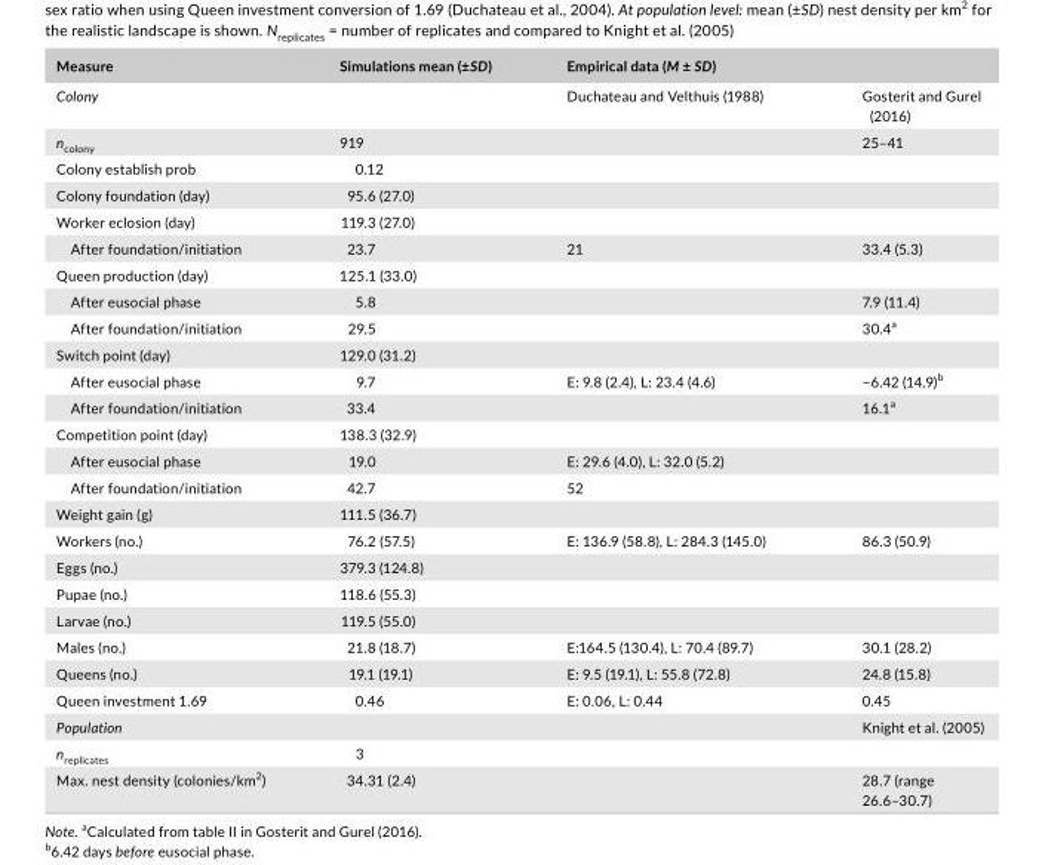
<table><thead><tr><td rowspan="2">Measure Colony</td><td rowspan="2">Simulations mean (±SD)</td><td colspan="2">Empirical data (M ± SD)</td></tr><tr><td>Duchateau and Velthuis (1988)</td><td>Gosterit and Gurel (2016)</td></tr></thead><tbody><tr><td>n<sub>colony</sub></td><td>919</td><td></td><td>25–41</td></tr><tr><td>Colony establish prob</td><td>0.12</td><td></td><td></td></tr><tr><td>Colony foundation (day)</td><td>95.6 (27.0)</td><td></td><td></td></tr><tr><td>Worker eclosion (day)</td><td>119.3 (27.0)</td><td></td><td></td></tr><tr><td>After foundation/initiation</td><td>23.7</td><td>21</td><td>33.4 (5.3)</td></tr><tr><td>Queen production (day)</td><td>125.1 (33.0)</td><td></td><td></td></tr><tr><td>After eusocial phase</td><td>5.8</td><td></td><td>7.9 (11.4)</td></tr><tr><td>After foundation/initiation</td><td>29.5</td><td></td><td>30.4<sup>a</sup></td></tr><tr><td>Switch point (day)</td><td>129.0 (31.2)</td><td></td><td></td></tr><tr><td>After eusocial phase</td><td>9.7</td><td>E: 9.8 (2.4), L: 23.4 (4.6)</td><td>−6.42 (14.9)<sup>b</sup></td></tr><tr><td>After foundation/initiation</td><td>33.4</td><td></td><td>16.1<sup>a</sup></td></tr><tr><td>Competition point (day)</td><td>138.3 (32.9)</td><td></td><td></td></tr><tr><td>After eusocial phase</td><td>19.0</td><td>E: 29.6 (4.0), L: 32.0 (5.2)</td><td></td></tr><tr><td>After foundation/initiation</td><td>42.7</td><td>52</td><td></td></tr><tr><td>Weight gain (g)</td><td>111.5 (36.7)</td><td></td><td></td></tr><tr><td>Workers (no.)</td><td>76.2 (57.5)</td><td>E: 136.9 (58.8), L: 284.3 (145.0)</td><td>86.3 (50.9)</td></tr><tr><td>Eggs (no.)</td><td>379.3 (124.8)</td><td></td><td></td></tr><tr><td>Pupae (no.)</td><td>118.6 (55.3)</td><td></td><td></td></tr><tr><td>Larvae (no.)</td><td>119.5 (55.0)</td><td></td><td></td></tr><tr><td>Males (no.)</td><td>21.8 (18.7)</td><td>E:164.5 (130.4), L: 70.4 (89.7)</td><td>30.1 (28.2)</td></tr><tr><td>Queens (no.)</td><td>19.1 (19.1)</td><td>E: 9.5 (19.1), L: 55.8 (72.8)</td><td>24.8 (15.8)</td></tr><tr><td>Queen investment 1.69</td><td>0.46</td><td>E: 0.06, L: 0.44</td><td>0.45</td></tr><tr><td>Population</td><td></td><td></td><td>Knight et al. (2005)</td></tr><tr><td>n<sub>replicates</sub></td><td>3</td><td></td><td></td></tr><tr><td>Max. nest density (colonies/km<sup>2</sup>)</td><td>34.31 (2.4)</td><td></td><td>28.7 (range 26.6–30.7)</td></tr></tbody></table>